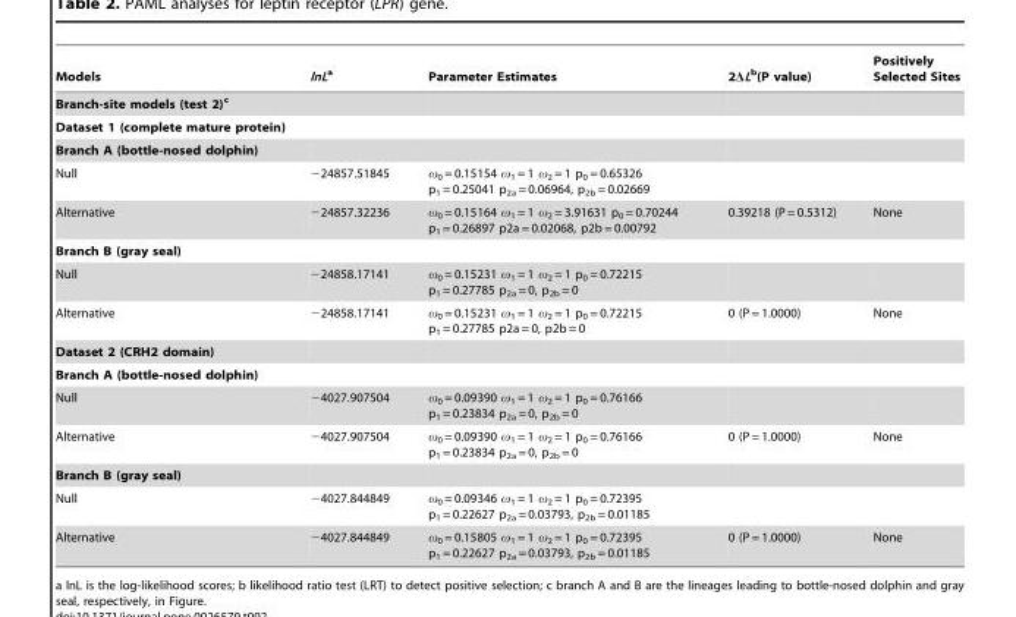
<table><thead><tr><td>Models</td><td>lnL<sup>a</sup></td><td>Parameter Estimates</td><td>2ΔL<sup>b</sup>(P value)</td><td>Positively Selected Sites</td></tr></thead><tbody><tr><td colspan="5">Branch-site models (test 2)<sup>c</sup></td></tr><tr><td colspan="5">Dataset 1 (complete mature protein)</td></tr><tr><td colspan="5">Branch A (bottle-nosed dolphin)</td></tr><tr><td>Null</td><td>−24857.51845</td><td>ω<sub>0</sub> = 0.15154 ω<sub>1</sub> = 1 ω<sub>2</sub> = 1 p<sub>0</sub> = 0.65326 p<sub>1</sub> = 0.25041 p<sub>2a</sub> = 0.06964, p<sub>2b</sub> = 0.02669</td><td></td><td></td></tr><tr><td>Alternative</td><td>−24857.32236</td><td>ω<sub>0</sub> = 0.15164 ω<sub>1</sub> = 1 ω<sub>2</sub> = 3.91631 p<sub>0</sub> = 0.70244 p<sub>1</sub> = 0.26897 p2a = 0.02068, p2b = 0.00792</td><td>0.39218 (P = 0.5312)</td><td>None</td></tr><tr><td colspan="5">Branch B (gray seal)</td></tr><tr><td>Null</td><td>−24858.17141</td><td>ω<sub>0</sub> = 0.15231 ω<sub>1</sub> = 1 ω<sub>2</sub> = 1 p<sub>0</sub> = 0.72215 p<sub>1</sub> = 0.27785 p<sub>2a</sub> = 0, p<sub>2b</sub> = 0</td><td></td><td></td></tr><tr><td>Alternative</td><td>−24858.17141</td><td>ω<sub>0</sub> = 0.15231 ω<sub>1</sub> = 1 ω<sub>2</sub> = 1 p<sub>0</sub> = 0.72215 p<sub>1</sub> = 0.27785 p2a = 0, p2b = 0</td><td>0 (P = 1.0000)</td><td>None</td></tr><tr><td colspan="5">Dataset 2 (CRH2 domain)</td></tr><tr><td colspan="5">Branch A (bottle-nosed dolphin)</td></tr><tr><td>Null</td><td>−4027.907504</td><td>ω<sub>0</sub> = 0.09390 ω<sub>1</sub> = 1 ω<sub>2</sub> = 1 p<sub>0</sub> = 0.76166 p<sub>1</sub> = 0.23834 p<sub>2a</sub> = 0, p<sub>2b</sub> = 0</td><td></td><td></td></tr><tr><td>Alternative</td><td>−4027.907504</td><td>ω<sub>0</sub> = 0.09390 ω<sub>1</sub> = 1 ω<sub>2</sub> = 1 p<sub>0</sub> = 0.76166 p<sub>1</sub> = 0.23834 p<sub>2a</sub> = 0, p<sub>2b</sub> = 0</td><td>0 (P = 1.0000)</td><td>None</td></tr><tr><td colspan="5">Branch B (gray seal)</td></tr><tr><td>Null</td><td>−4027.844849</td><td>ω<sub>0</sub> = 0.09346 ω<sub>1</sub> = 1 ω<sub>2</sub> = 1 p<sub>0</sub> = 0.72395 p<sub>1</sub> = 0.22627 p<sub>2a</sub> = 0.03793, p<sub>2b</sub> = 0.01185</td><td></td><td></td></tr><tr><td>Alternative</td><td>−4027.844849</td><td>ω<sub>0</sub> = 0.15805 ω<sub>1</sub> = 1 ω<sub>2</sub> = 1 p<sub>0</sub> = 0.72395 p<sub>1</sub> = 0.22627 p<sub>2a</sub> = 0.03793, p<sub>2b</sub> = 0.01185</td><td>0 (P = 1.0000)</td><td>None</td></tr></tbody></table>